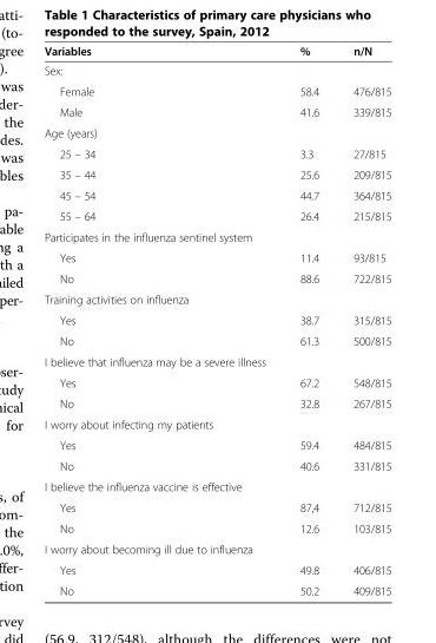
<table><thead><tr><td>Variables</td><td>%</td><td>n/N</td></tr></thead><tbody><tr><td colspan="3">Sex:</td></tr><tr><td>Female</td><td>58.4</td><td>476/815</td></tr><tr><td>Male</td><td>41.6</td><td>339/815</td></tr><tr><td colspan="3">Age (years)</td></tr><tr><td>25 – 34</td><td>3.3</td><td>27/815</td></tr><tr><td>35 – 44</td><td>25.6</td><td>209/815</td></tr><tr><td>45 – 54</td><td>44.7</td><td>364/815</td></tr><tr><td>55 – 64</td><td>26.4</td><td>215/815</td></tr><tr><td colspan="3">Participates in the influenza sentinel system</td></tr><tr><td>Yes</td><td>11.4</td><td>93/815</td></tr><tr><td>No</td><td>88.6</td><td>722/815</td></tr><tr><td colspan="3">Training activities on influenza</td></tr><tr><td>Yes</td><td>38.7</td><td>315/815</td></tr><tr><td>No</td><td>61.3</td><td>500/815</td></tr><tr><td colspan="3">I believe that influenza may be a severe illness</td></tr><tr><td>Yes</td><td>67.2</td><td>548/815</td></tr><tr><td>No</td><td>32.8</td><td>267/815</td></tr><tr><td colspan="3">I worry about infecting my patients</td></tr><tr><td>Yes</td><td>59.4</td><td>484/815</td></tr><tr><td>No</td><td>40.6</td><td>331/815</td></tr><tr><td colspan="3">I believe the influenza vaccine is effective</td></tr><tr><td>Yes</td><td>87,4</td><td>712/815</td></tr><tr><td>No</td><td>12.6</td><td>103/815</td></tr><tr><td colspan="3">I worry about becoming ill due to influenza</td></tr><tr><td>Yes</td><td>49.8</td><td>406/815</td></tr><tr><td>No</td><td>50.2</td><td>409/815</td></tr></tbody></table>